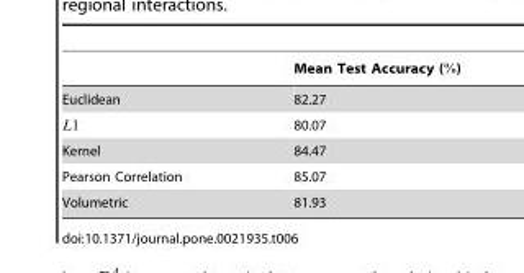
<table><thead><tr><td></td><td>Mean Test Accuracy (%)</td></tr></thead><tbody><tr><td rowspan="2">Euclidean L1</td><td>82.27</td></tr><tr><td>80.07</td></tr><tr><td>Kernel</td><td>84.47</td></tr><tr><td>Pearson Correlation</td><td>85.07</td></tr><tr><td>Volumetric</td><td>81.93</td></tr></tbody></table>